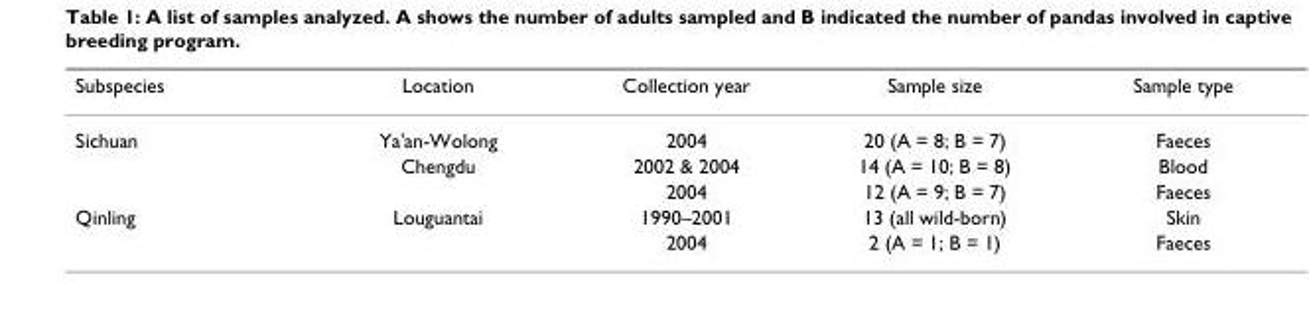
<table><thead><tr><td>Subspecies</td><td>Location</td><td>Collection year</td><td>Sample size</td><td>Sample type</td></tr></thead><tbody><tr><td rowspan="3">Sichuan</td><td>Ya&#x27;an-Wolong</td><td>2004</td><td>20 (A = 8; B = 7)</td><td>Faeces</td></tr><tr><td>Chengdu</td><td>2002 &amp; 2004</td><td>14 (A = 10; B = 8)</td><td>Blood</td></tr><tr><td></td><td>2004</td><td>12 (A = 9; B = 7)</td><td>Faeces</td></tr><tr><td rowspan="2">Qinling</td><td>Louguantai</td><td>1990–2001</td><td>13 (all wild-born)</td><td>Skin</td></tr><tr><td></td><td>2004</td><td>2 (A = 1; B = 1)</td><td>Faeces</td></tr></tbody></table>